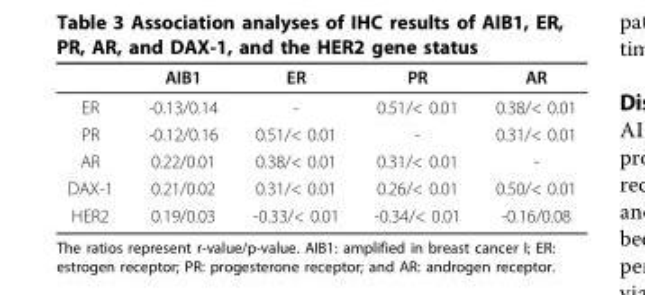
<table><thead><tr><td></td><td>AIB1</td><td>ER</td><td>PR</td><td>AR</td></tr></thead><tbody><tr><td>ER</td><td>-0.13/0.14</td><td>-</td><td>0.51/&lt; 0.01</td><td>0.38/&lt; 0.01</td></tr><tr><td>PR</td><td>-0.12/0.16</td><td>0.51/&lt; 0.01</td><td>-</td><td>0.31/&lt; 0.01</td></tr><tr><td>AR</td><td>0.22/0.01</td><td>0.38/&lt; 0.01</td><td>0.31/&lt; 0.01</td><td>-</td></tr><tr><td>DAX-1</td><td>0.21/0.02</td><td>0.31/&lt; 0.01</td><td>0.26/&lt; 0.01</td><td>0.50/&lt; 0.01</td></tr><tr><td>HER2</td><td>0.19/0.03</td><td>-0.33/&lt; 0.01</td><td>-0.34/&lt; 0.01</td><td>-0.16/0.08</td></tr></tbody></table>